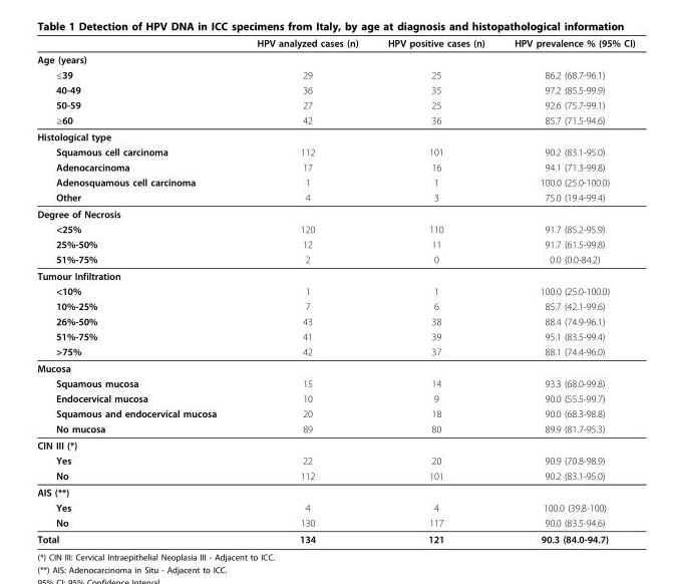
<table><thead><tr><td></td><td>HPV analyzed cases (n)</td><td>HPV positive cases (n)</td><td>HPV prevalence % (95% CI)</td></tr></thead><tbody><tr><td colspan="4">Age (years)</td></tr><tr><td>≤39</td><td>29</td><td>25</td><td>86.2 (68.7-96.1)</td></tr><tr><td>40-49</td><td>36</td><td>35</td><td>97.2 (85.5-99.9)</td></tr><tr><td>50-59</td><td>27</td><td>25</td><td>92.6 (75.7-99.1)</td></tr><tr><td>≥60</td><td>42</td><td>36</td><td>85.7 (71.5-94.6)</td></tr><tr><td colspan="4">Histological type</td></tr><tr><td>Squamous cell carcinoma</td><td>112</td><td>101</td><td>90.2 (83.1-95.0)</td></tr><tr><td>Adenocarcinoma</td><td>17</td><td>16</td><td>94.1 (71.3-99.8)</td></tr><tr><td>Adenosquamous cell carcinoma</td><td>1</td><td>1</td><td>100.0 (25.0-100.0)</td></tr><tr><td>Other</td><td>4</td><td>3</td><td>75.0 (19.4-99.4)</td></tr><tr><td colspan="4">Degree of Necrosis</td></tr><tr><td>&lt;25%</td><td>120</td><td>110</td><td>91.7 (85.2-95.9)</td></tr><tr><td>25%-50%</td><td>12</td><td>11</td><td>91.7 (61.5-99.8)</td></tr><tr><td>51%-75%</td><td>2</td><td>0</td><td>0.0 (0.0-84.2)</td></tr><tr><td colspan="4">Tumour Infiltration</td></tr><tr><td>&lt;10%</td><td>1</td><td>1</td><td>100.0 (25.0-100.0)</td></tr><tr><td>10%-25%</td><td>7</td><td>6</td><td>85.7 (42.1-99.6)</td></tr><tr><td>26%-50%</td><td>43</td><td>38</td><td>88.4 (74.9-96.1)</td></tr><tr><td>51%-75%</td><td>41</td><td>39</td><td>95.1 (83.5-99.4)</td></tr><tr><td>&gt;75%</td><td>42</td><td>37</td><td>88.1 (74.4-96.0)</td></tr><tr><td colspan="4">Mucosa</td></tr><tr><td>Squamous mucosa</td><td>15</td><td>14</td><td>93.3 (68.0-99.8)</td></tr><tr><td>Endocervical mucosa</td><td>10</td><td>9</td><td>90.0 (55.5-99.7)</td></tr><tr><td>Squamous and endocervical mucosa</td><td>20</td><td>18</td><td>90.0 (68.3-98.8)</td></tr><tr><td>No mucosa</td><td>89</td><td>80</td><td>89.9 (81.7-95.3)</td></tr><tr><td colspan="4">CIN III (*)</td></tr><tr><td>Yes</td><td>22</td><td>20</td><td>90.9 (70.8-98.9)</td></tr><tr><td>No</td><td>112</td><td>101</td><td>90.2 (83.1-95.0)</td></tr><tr><td colspan="4">AIS (**)</td></tr><tr><td>Yes</td><td>4</td><td>4</td><td>100.0 (39.8-100)</td></tr><tr><td>No</td><td>130</td><td>117</td><td>90.0 (83.5-94.6)</td></tr><tr><td>Total</td><td>134</td><td>121</td><td>90.3 (84.0-94.7)</td></tr></tbody></table>